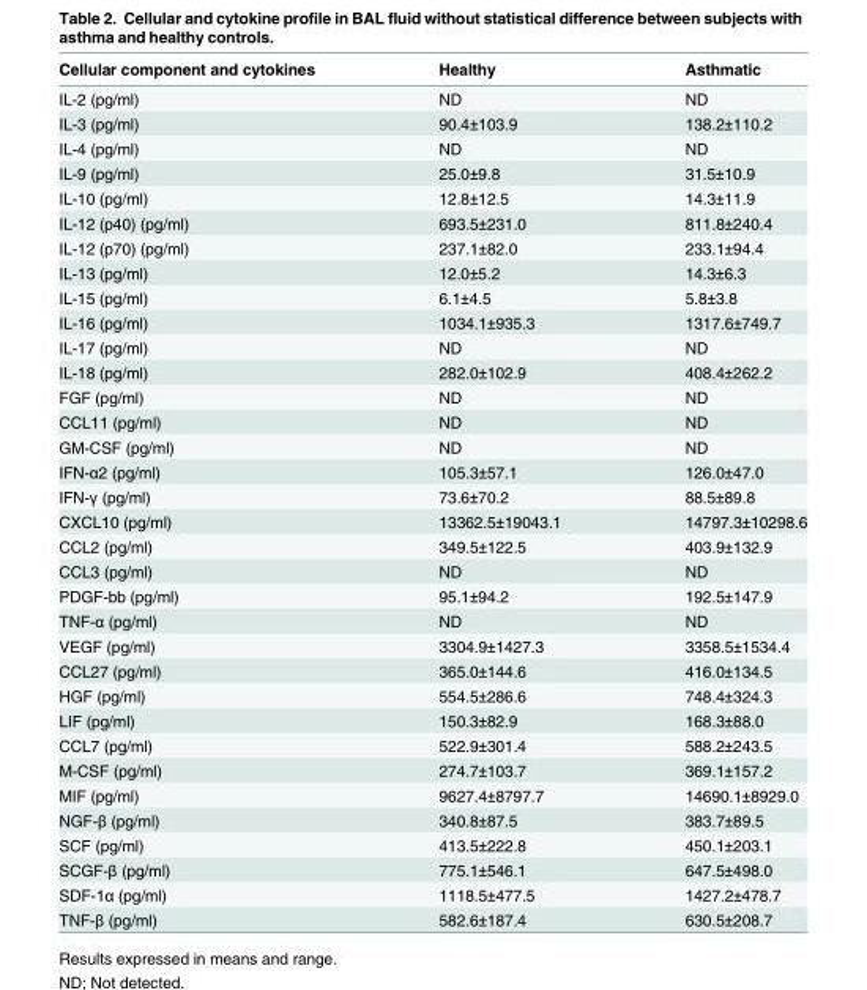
<table><thead><tr><td>Cellular component and cytokines</td><td>Healthy</td><td>Asthmatic</td></tr></thead><tbody><tr><td>IL-2 (pg/ml)</td><td>ND</td><td>ND</td></tr><tr><td>IL-3 (pg/ml)</td><td>90.4±103.9</td><td>138.2±110.2</td></tr><tr><td>IL-4 (pg/ml)</td><td>ND</td><td>ND</td></tr><tr><td>IL-9 (pg/ml)</td><td>25.0±9.8</td><td>31.5±10.9</td></tr><tr><td>IL-10 (pg/ml)</td><td>12.8±12.5</td><td>14.3±11.9</td></tr><tr><td>IL-12 (p40) (pg/ml)</td><td>693.5±231.0</td><td>811.8±240.4</td></tr><tr><td>IL-12 (p70) (pg/ml)</td><td>237.1±82.0</td><td>233.1±94.4</td></tr><tr><td>IL-13 (pg/ml)</td><td>12.0±5.2</td><td>14.3±6.3</td></tr><tr><td>IL-15 (pg/ml)</td><td>6.1±4.5</td><td>5.8±3.8</td></tr><tr><td>IL-16 (pg/ml)</td><td>1034.1±935.3</td><td>1317.6±749.7</td></tr><tr><td>IL-17 (pg/ml)</td><td>ND</td><td>ND</td></tr><tr><td>IL-18 (pg/ml)</td><td>282.0±102.9</td><td>408.4±262.2</td></tr><tr><td>FGF (pg/ml)</td><td>ND</td><td>ND</td></tr><tr><td>CCL11 (pg/ml)</td><td>ND</td><td>ND</td></tr><tr><td>GM-CSF (pg/ml)</td><td>ND</td><td>ND</td></tr><tr><td>IFN-α2 (pg/ml)</td><td>105.3±57.1</td><td>126.0±47.0</td></tr><tr><td>IFN-γ (pg/ml)</td><td>73.6±70.2</td><td>88.5±89.8</td></tr><tr><td>CXCL10 (pg/ml)</td><td>13362.5±19043.1</td><td>14797.3±10298.6</td></tr><tr><td>CCL2 (pg/ml)</td><td>349.5±122.5</td><td>403.9±132.9</td></tr><tr><td>CCL3 (pg/ml)</td><td>ND</td><td>ND</td></tr><tr><td>PDGF-bb (pg/ml)</td><td>95.1±94.2</td><td>192.5±147.9</td></tr><tr><td>TNF-α (pg/ml)</td><td>ND</td><td>ND</td></tr><tr><td>VEGF (pg/ml)</td><td>3304.9±1427.3</td><td>3358.5±1534.4</td></tr><tr><td>CCL27 (pg/ml)</td><td>365.0±144.6</td><td>416.0±134.5</td></tr><tr><td>HGF (pg/ml)</td><td>554.5±286.6</td><td>748.4±324.3</td></tr><tr><td>LIF (pg/ml)</td><td>150.3±82.9</td><td>168.3±88.0</td></tr><tr><td>CCL7 (pg/ml)</td><td>522.9±301.4</td><td>588.2±243.5</td></tr><tr><td>M-CSF (pg/ml)</td><td>274.7±103.7</td><td>369.1±157.2</td></tr><tr><td>MIF (pg/ml)</td><td>9627.4±8797.7</td><td>14690.1±8929.0</td></tr><tr><td>NGF-β (pg/ml)</td><td>340.8±87.5</td><td>383.7±89.5</td></tr><tr><td>SCF (pg/ml)</td><td>413.5±222.8</td><td>450.1±203.1</td></tr><tr><td>SCGF-β (pg/ml)</td><td>775.1±546.1</td><td>647.5±498.0</td></tr><tr><td>SDF-1α (pg/ml)</td><td>1118.5±477.5</td><td>1427.2±478.7</td></tr><tr><td>TNF-β (pg/ml)</td><td>582.6±187.4</td><td>630.5±208.7</td></tr></tbody></table>